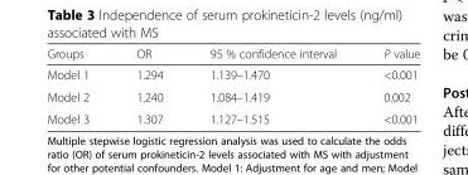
<table><thead><tr><td>Groups</td><td>OR</td><td>95 % confidence interval</td><td>P value</td></tr></thead><tbody><tr><td>Model 1</td><td>1.294</td><td>1.139–1.470</td><td>&lt;0.001</td></tr><tr><td>Model 2</td><td>1.240</td><td>1.084–1.419</td><td>0.002</td></tr><tr><td>Model 3</td><td>1.307</td><td>1.127–1.515</td><td>&lt;0.001</td></tr></tbody></table>